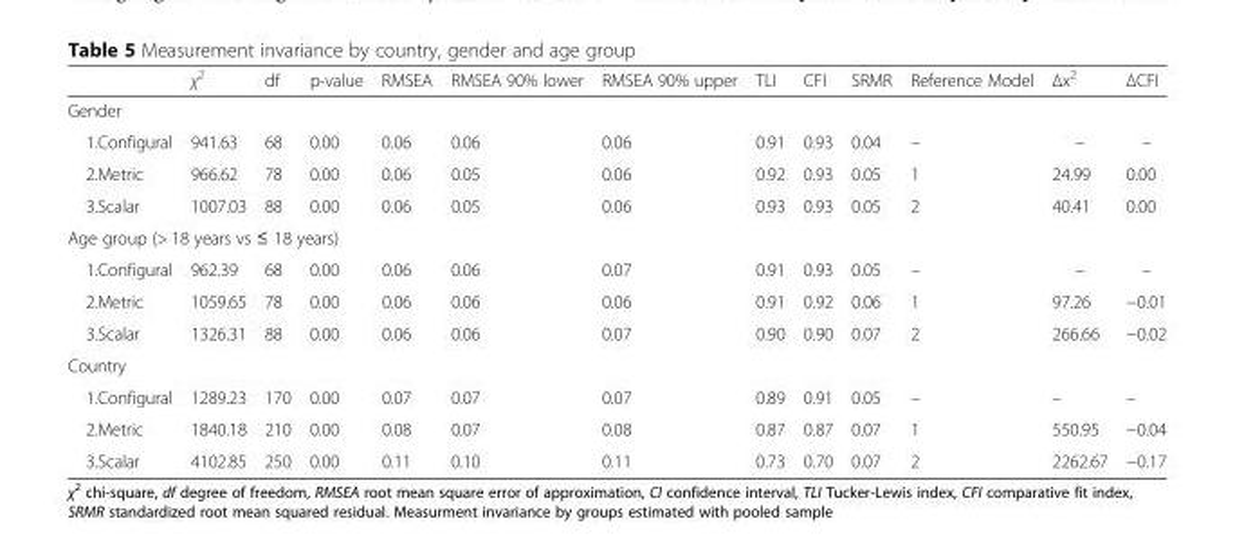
<table><thead><tr><td></td><td>χ<sup>2</sup></td><td>df</td><td>p-value</td><td>RMSEA</td><td>RMSEA 90% lower</td><td>RMSEA 90% upper</td><td>TLI</td><td>CFI</td><td>SRMR</td><td>Reference Model</td><td>Δx2</td><td>ΔCFI</td></tr></thead><tbody><tr><td colspan="13">Gender</td></tr><tr><td>1.Configural</td><td>941.63</td><td>68</td><td>0.00</td><td>0.06</td><td>0.06</td><td>0.06</td><td>0.91</td><td>0.93</td><td>0.04</td><td>–</td><td>–</td><td>–</td></tr><tr><td>2.Metric</td><td>966.62</td><td>78</td><td>0.00</td><td>0.06</td><td>0.05</td><td>0.06</td><td>0.92</td><td>0.93</td><td>0.05</td><td>1</td><td>24.99</td><td>0.00</td></tr><tr><td>3.Scalar</td><td>1007.03</td><td>88</td><td>0.00</td><td>0.06</td><td>0.05</td><td>0.06</td><td>0.93</td><td>0.93</td><td>0.05</td><td>2</td><td>40.41</td><td>0.00</td></tr><tr><td colspan="13">Age group (&gt; 18 years vs ≤ 18 years)</td></tr><tr><td>1.Configural</td><td>962.39</td><td>68</td><td>0.00</td><td>0.06</td><td>0.06</td><td>0.07</td><td>0.91</td><td>0.93</td><td>0.05</td><td>–</td><td>–</td><td>–</td></tr><tr><td>2.Metric</td><td>1059.65</td><td>78</td><td>0.00</td><td>0.06</td><td>0.06</td><td>0.06</td><td>0.91</td><td>0.92</td><td>0.06</td><td>1</td><td>97.26</td><td>−0.01</td></tr><tr><td>3.Scalar</td><td>1326.31</td><td>88</td><td>0.00</td><td>0.06</td><td>0.06</td><td>0.07</td><td>0.90</td><td>0.90</td><td>0.07</td><td>2</td><td>266.66</td><td>−0.02</td></tr><tr><td colspan="13">Country</td></tr><tr><td>1.Configural</td><td>1289.23</td><td>170</td><td>0.00</td><td>0.07</td><td>0.07</td><td>0.07</td><td>0.89</td><td>0.91</td><td>0.05</td><td>–</td><td>–</td><td>–</td></tr><tr><td>2.Metric</td><td>1840.18</td><td>210</td><td>0.00</td><td>0.08</td><td>0.07</td><td>0.08</td><td>0.87</td><td>0.87</td><td>0.07</td><td>1</td><td>550.95</td><td>−0.04</td></tr><tr><td>3.Scalar</td><td>4102.85</td><td>250</td><td>0.00</td><td>0.11</td><td>0.10</td><td>0.11</td><td>0.73</td><td>0.70</td><td>0.07</td><td>2</td><td>2262.67</td><td>−0.17</td></tr></tbody></table>